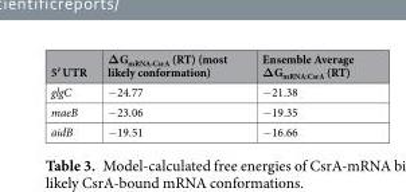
<table><thead><tr><td>5′ UTR</td><td>ΔG<sub>mRNA:CsrA</sub> (RT) (most likely conformation)</td><td>Ensemble Average ΔG<sub>mRNA:CsrA</sub> (RT)</td></tr></thead><tbody><tr><td>glgC</td><td>−24.77</td><td>−21.38</td></tr><tr><td>maeB</td><td>−23.06</td><td>−19.35</td></tr><tr><td>aidB</td><td>−19.51</td><td>−16.66</td></tr></tbody></table>